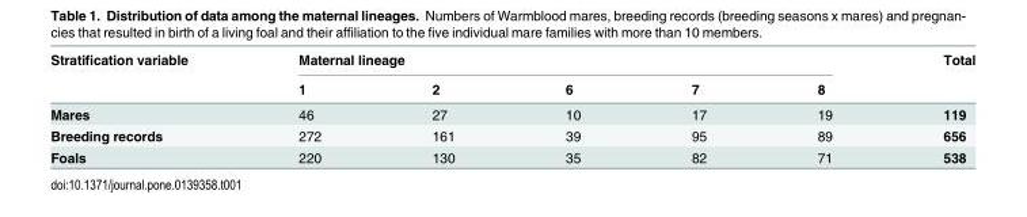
<table><thead><tr><td rowspan="2">Stratification variable</td><td colspan="5">Maternal lineage</td><td rowspan="2">Total</td></tr><tr><td>1</td><td>2</td><td>6</td><td>7</td><td>8</td></tr></thead><tbody><tr><td>Mares</td><td>46</td><td>27</td><td>10</td><td>17</td><td>19</td><td>119</td></tr><tr><td>Breeding records</td><td>272</td><td>161</td><td>39</td><td>95</td><td>89</td><td>656</td></tr><tr><td>Foals</td><td>220</td><td>130</td><td>35</td><td>82</td><td>71</td><td>538</td></tr></tbody></table>